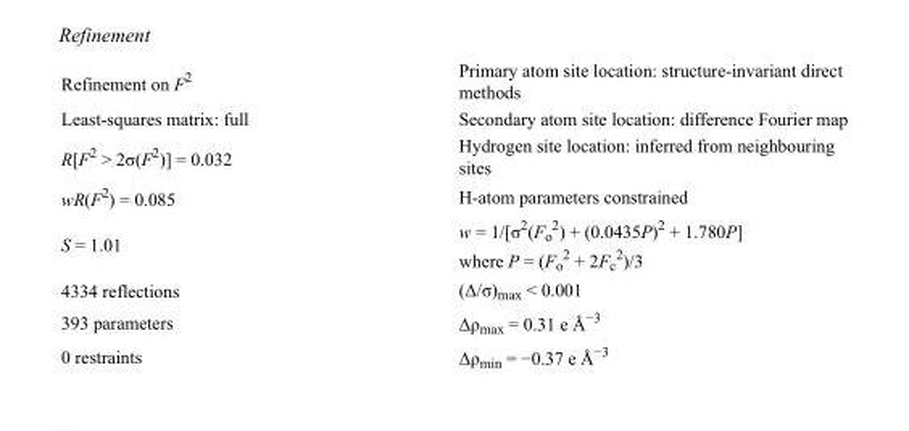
<table><tbody><tr><td>Refinement on F<sup>2</sup></td><td>Primary atom site location: structure-invariant direct methods</td></tr><tr><td>Least-squares matrix: full</td><td>Secondary atom site location: difference Fourier map</td></tr><tr><td>R[F<sup>2</sup> &gt; 2σ(F<sup>2</sup>)] = 0.032</td><td>Hydrogen site location: inferred from neighbouring sites</td></tr><tr><td>wR(F<sup>2</sup>) = 0.085</td><td>H-atom parameters constrained</td></tr><tr><td>S = 1.01</td><td>w = 1/[σ<sup>2</sup>(F<sub>o</sub> <sup>2</sup>) + (0.0435P)<sup>2</sup> + 1.780P] where P = (F<sub>o</sub> <sup>2</sup> + 2F<sub>c</sub> <sup>2</sup>)/3</td></tr><tr><td>4334 reflections</td><td>(Δ/σ)<sub>max</sub> &lt; 0.001</td></tr><tr><td>393 parameters</td><td>Δρ<sub>max</sub> = 0.31 e Å<sup>−3</sup></td></tr><tr><td>0 restraints</td><td>Δρ<sub>min</sub> = −0.37 e Å<sup>−3</sup></td></tr></tbody></table>